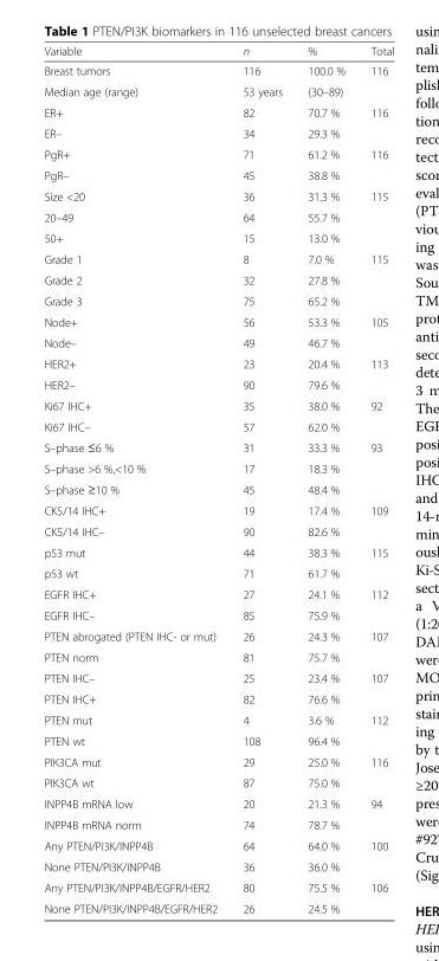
<table><thead><tr><td>Variable</td><td>n</td><td>%</td><td>Total</td></tr></thead><tbody><tr><td>Breast tumors</td><td>116</td><td>100.0 %</td><td>116</td></tr><tr><td>Median age (range)</td><td>53 years</td><td>(30–89)</td><td></td></tr><tr><td>ER+</td><td>82</td><td>70.7 %</td><td>116</td></tr><tr><td>ER–</td><td>34</td><td>29.3 %</td><td></td></tr><tr><td>PgR+</td><td>71</td><td>61.2 %</td><td>116</td></tr><tr><td>PgR–</td><td>45</td><td>38.8 %</td><td></td></tr><tr><td>Size &lt;20</td><td>36</td><td>31.3 %</td><td>115</td></tr><tr><td>20–49</td><td>64</td><td>55.7 %</td><td></td></tr><tr><td>50+</td><td>15</td><td>13.0 %</td><td></td></tr><tr><td>Grade 1</td><td>8</td><td>7.0 %</td><td>115</td></tr><tr><td>Grade 2</td><td>32</td><td>27.8 %</td><td></td></tr><tr><td>Grade 3</td><td>75</td><td>65.2 %</td><td></td></tr><tr><td>Node+</td><td>56</td><td>53.3 %</td><td>105</td></tr><tr><td>Node–</td><td>49</td><td>46.7 %</td><td></td></tr><tr><td>HER2+</td><td>23</td><td>20.4 %</td><td>113</td></tr><tr><td>HER2–</td><td>90</td><td>79.6 %</td><td></td></tr><tr><td>Ki67 IHC+</td><td>35</td><td>38.0 %</td><td>92</td></tr><tr><td>Ki67 IHC–</td><td>57</td><td>62.0 %</td><td></td></tr><tr><td>S–phase ≤6 %</td><td>31</td><td>33.3 %</td><td>93</td></tr><tr><td>S–phase &gt;6 %,&lt;10 %</td><td>17</td><td>18.3 %</td><td></td></tr><tr><td>S–phase ≥10 %</td><td>45</td><td>48.4 %</td><td></td></tr><tr><td>CK5/14 IHC+</td><td>19</td><td>17.4 %</td><td>109</td></tr><tr><td>CK5/14 IHC–</td><td>90</td><td>82.6 %</td><td></td></tr><tr><td>p53 mut</td><td>44</td><td>38.3 %</td><td>115</td></tr><tr><td>p53 wt</td><td>71</td><td>61.7 %</td><td></td></tr><tr><td>EGFR IHC+</td><td>27</td><td>24.1 %</td><td>112</td></tr><tr><td>EGFR IHC–</td><td>85</td><td>75.9 %</td><td></td></tr><tr><td>PTEN abrogated (PTEN IHC- or mut)</td><td>26</td><td>24.3 %</td><td>107</td></tr><tr><td>PTEN norm</td><td>81</td><td>75.7 %</td><td></td></tr><tr><td>PTEN IHC–</td><td>25</td><td>23.4 %</td><td>107</td></tr><tr><td>PTEN IHC+</td><td>82</td><td>76.6 %</td><td></td></tr><tr><td>PTEN mut</td><td>4</td><td>3.6 %</td><td>112</td></tr><tr><td>PTEN wt</td><td>108</td><td>96.4 %</td><td></td></tr><tr><td>PIK3CA mut</td><td>29</td><td>25.0 %</td><td>116</td></tr><tr><td>PIK3CA wt</td><td>87</td><td>75.0 %</td><td></td></tr><tr><td>INPP4B mRNA low</td><td>20</td><td>21.3 %</td><td>94</td></tr><tr><td>INPP4B mRNA norm</td><td>74</td><td>78.7 %</td><td></td></tr><tr><td>Any PTEN/PI3K/INPP4B</td><td>64</td><td>64.0 %</td><td>100</td></tr><tr><td>None PTEN/PI3K/INPP4B</td><td>36</td><td>36.0 %</td><td></td></tr><tr><td>Any PTEN/PI3K/INPP4B/EGFR/HER2</td><td>80</td><td>75.5 %</td><td>106</td></tr><tr><td>None PTEN/PI3K/INPP4B/EGFR/HER2</td><td>26</td><td>24.5 %</td><td></td></tr></tbody></table>